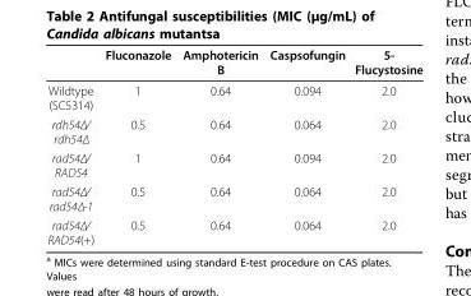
<table><thead><tr><td></td><td>Fluconazole</td><td>Amphotericin B</td><td>Caspsofungin</td><td>5- Flucystosine</td></tr></thead><tbody><tr><td>Wildtype (SC5314)</td><td>1</td><td>0.64</td><td>0.094</td><td>2.0</td></tr><tr><td>rdh54Δ/ rdh54Δ</td><td>0.5</td><td>0.64</td><td>0.064</td><td>2.0</td></tr><tr><td>rad54Δ/ RAD54</td><td>1</td><td>0.64</td><td>0.094</td><td>2.0</td></tr><tr><td>rad54Δ/ rad54Δ-1</td><td>0.5</td><td>0.64</td><td>0.064</td><td>2.0</td></tr><tr><td>rad54Δ/ RAD54(+)</td><td>0.5</td><td>0.64</td><td>0.064</td><td>2.0</td></tr></tbody></table>